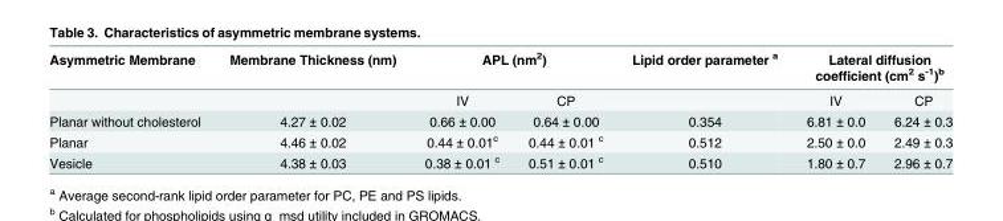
<table><thead><tr><td rowspan="2">Asymmetric Membrane</td><td rowspan="2">Membrane Thickness (nm)</td><td colspan="2">APL (nm<sup>2</sup>)</td><td rowspan="2">Lipid order parameter <sup>a</sup></td><td colspan="2">Lateral diffusion coefficient (cm<sup>2</sup> s<sup>-1</sup>)<sup>b</sup></td></tr><tr><td>IV</td><td>CP</td><td>IV</td><td>CP</td></tr></thead><tbody><tr><td>Planar without cholesterol</td><td>4.27 ± 0.02</td><td>0.66 ± 0.00</td><td>0.64 ± 0.00</td><td>0.354</td><td>6.81 ± 0.0</td><td>6.24 ± 0.3</td></tr><tr><td>Planar</td><td>4.46 ± 0.02</td><td>0.44 ± 0.01<sup>c</sup></td><td>0.44 ± 0.01 <sup>c</sup></td><td>0.512</td><td>2.50 ± 0.0</td><td>2.49 ± 0.3</td></tr><tr><td>Vesicle</td><td>4.38 ± 0.03</td><td>0.38 ± 0.01 <sup>c</sup></td><td>0.51 ± 0.01 <sup>c</sup></td><td>0.510</td><td>1.80 ± 0.7</td><td>2.96 ± 0.7</td></tr></tbody></table>